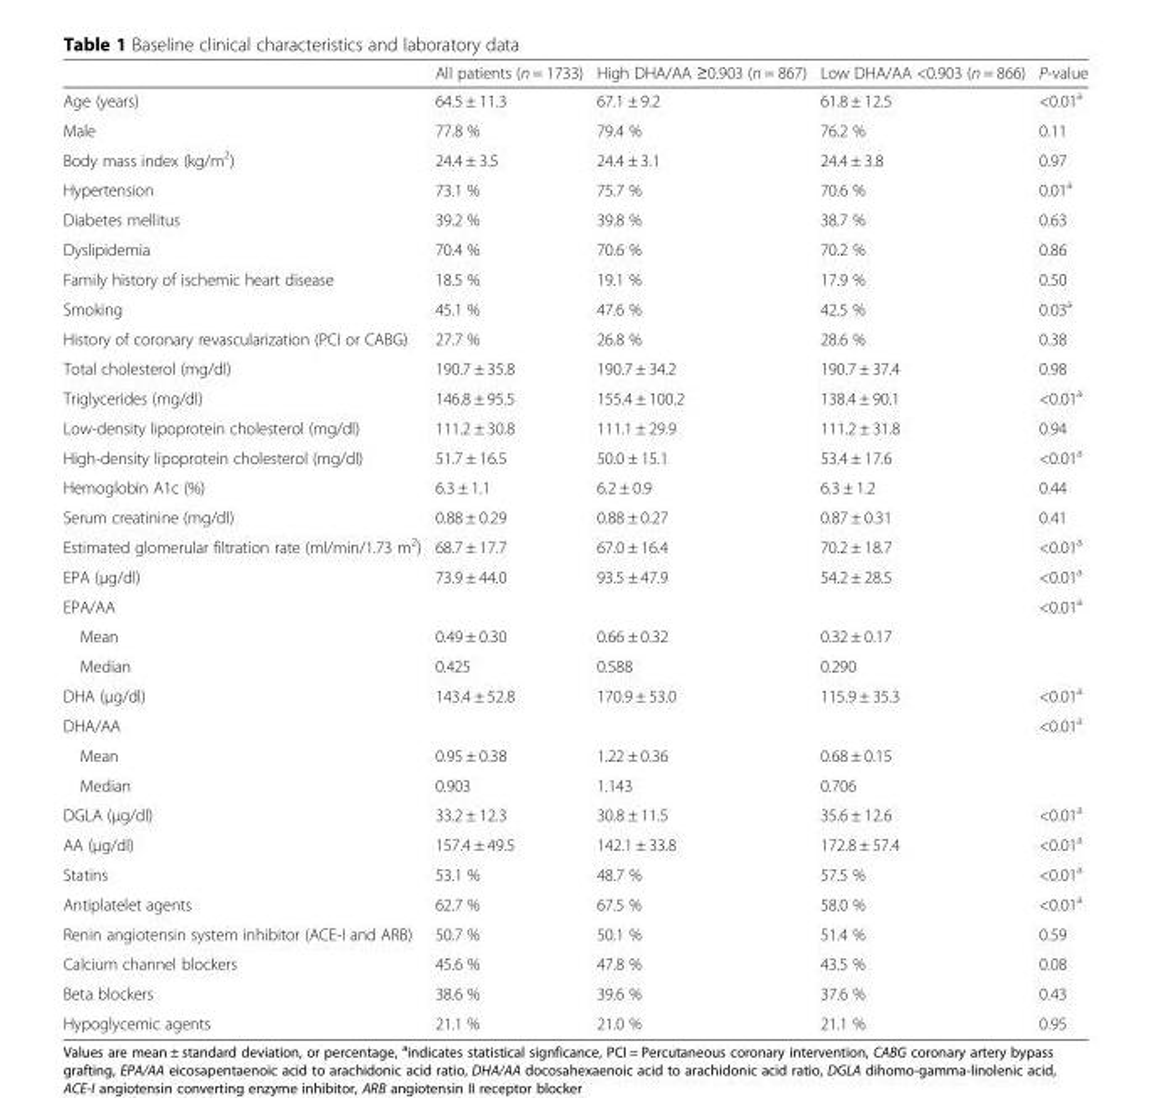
<table><thead><tr><td></td><td>All patients (n = 1733)</td><td>High DHA/AA ≥0.903 (n = 867)</td><td>Low DHA/AA &lt;0.903 (n = 866)</td><td>P-value</td></tr></thead><tbody><tr><td>Age (years)</td><td>64.5 ± 11.3</td><td>67.1 ± 9.2</td><td>61.8 ± 12.5</td><td>&lt;0.01<sup>a</sup></td></tr><tr><td>Male</td><td>77.8 %</td><td>79.4 %</td><td>76.2 %</td><td>0.11</td></tr><tr><td>Body mass index (kg/m<sup>2</sup>)</td><td>24.4 ± 3.5</td><td>24.4 ± 3.1</td><td>24.4 ± 3.8</td><td>0.97</td></tr><tr><td>Hypertension</td><td>73.1 %</td><td>75.7 %</td><td>70.6 %</td><td>0.01<sup>a</sup></td></tr><tr><td>Diabetes mellitus</td><td>39.2 %</td><td>39.8 %</td><td>38.7 %</td><td>0.63</td></tr><tr><td>Dyslipidemia</td><td>70.4 %</td><td>70.6 %</td><td>70.2 %</td><td>0.86</td></tr><tr><td>Family history of ischemic heart disease</td><td>18.5 %</td><td>19.1 %</td><td>17.9 %</td><td>0.50</td></tr><tr><td>Smoking</td><td>45.1 %</td><td>47.6 %</td><td>42.5 %</td><td>0.03<sup>a</sup></td></tr><tr><td>History of coronary revascularization (PCI or CABG)</td><td>27.7 %</td><td>26.8 %</td><td>28.6 %</td><td>0.38</td></tr><tr><td>Total cholesterol (mg/dl)</td><td>190.7 ± 35.8</td><td>190.7 ± 34.2</td><td>190.7 ± 37.4</td><td>0.98</td></tr><tr><td>Triglycerides (mg/dl)</td><td>146.8 ± 95.5</td><td>155.4 ± 100.2</td><td>138.4 ± 90.1</td><td>&lt;0.01<sup>a</sup></td></tr><tr><td>Low-density lipoprotein cholesterol (mg/dl)</td><td>111.2 ± 30.8</td><td>111.1 ± 29.9</td><td>111.2 ± 31.8</td><td>0.94</td></tr><tr><td>High-density lipoprotein cholesterol (mg/dl)</td><td>51.7 ± 16.5</td><td>50.0 ± 15.1</td><td>53.4 ± 17.6</td><td>&lt;0.01<sup>a</sup></td></tr><tr><td>Hemoglobin A1c (%)</td><td>6.3 ± 1.1</td><td>6.2 ± 0.9</td><td>6.3 ± 1.2</td><td>0.44</td></tr><tr><td>Serum creatinine (mg/dl)</td><td>0.88 ± 0.29</td><td>0.88 ± 0.27</td><td>0.87 ± 0.31</td><td>0.41</td></tr><tr><td>Estimated glomerular filtration rate (ml/min/1.73 m<sup>2</sup>)</td><td>68.7 ± 17.7</td><td>67.0 ± 16.4</td><td>70.2 ± 18.7</td><td>&lt;0.01<sup>a</sup></td></tr><tr><td>EPA (μg/dl)</td><td>73.9 ± 44.0</td><td>93.5 ± 47.9</td><td>54.2 ± 28.5</td><td>&lt;0.01<sup>a</sup></td></tr><tr><td>EPA/AA</td><td></td><td></td><td></td><td>&lt;0.01<sup>a</sup></td></tr><tr><td>Mean</td><td>0.49 ± 0.30</td><td>0.66 ± 0.32</td><td>0.32 ± 0.17</td><td></td></tr><tr><td>Median</td><td>0.425</td><td>0.588</td><td>0.290</td><td></td></tr><tr><td>DHA (μg/dl)</td><td>143.4 ± 52.8</td><td>170.9 ± 53.0</td><td>115.9 ± 35.3</td><td>&lt;0.01<sup>a</sup></td></tr><tr><td>DHA/AA</td><td></td><td></td><td></td><td>&lt;0.01<sup>a</sup></td></tr><tr><td>Mean</td><td>0.95 ± 0.38</td><td>1.22 ± 0.36</td><td>0.68 ± 0.15</td><td></td></tr><tr><td>Median</td><td>0.903</td><td>1.143</td><td>0.706</td><td></td></tr><tr><td>DGLA (μg/dl)</td><td>33.2 ± 12.3</td><td>30.8 ± 11.5</td><td>35.6 ± 12.6</td><td>&lt;0.01<sup>a</sup></td></tr><tr><td>AA (μg/dl)</td><td>157.4 ± 49.5</td><td>142.1 ± 33.8</td><td>172.8 ± 57.4</td><td>&lt;0.01<sup>a</sup></td></tr><tr><td>Statins</td><td>53.1 %</td><td>48.7 %</td><td>57.5 %</td><td>&lt;0.01<sup>a</sup></td></tr><tr><td>Antiplatelet agents</td><td>62.7 %</td><td>67.5 %</td><td>58.0 %</td><td>&lt;0.01<sup>a</sup></td></tr><tr><td>Renin angiotensin system inhibitor (ACE-I and ARB)</td><td>50.7 %</td><td>50.1 %</td><td>51.4 %</td><td>0.59</td></tr><tr><td>Calcium channel blockers</td><td>45.6 %</td><td>47.8 %</td><td>43.5 %</td><td>0.08</td></tr><tr><td>Beta blockers</td><td>38.6 %</td><td>39.6 %</td><td>37.6 %</td><td>0.43</td></tr><tr><td>Hypoglycemic agents</td><td>21.1 %</td><td>21.0 %</td><td>21.1 %</td><td>0.95</td></tr></tbody></table>